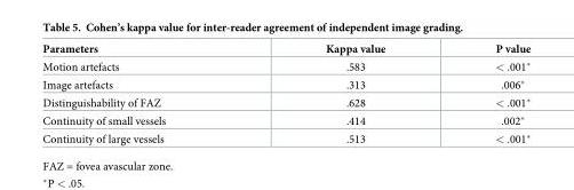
<table><thead><tr><td>Parameters</td><td>Kappa value</td><td>P value</td></tr></thead><tbody><tr><td>Motion artefacts</td><td>.583</td><td>&lt; .001*</td></tr><tr><td>Image artefacts</td><td>.313</td><td>.006*</td></tr><tr><td>Distinguishability of FAZ</td><td>.628</td><td>&lt; .001*</td></tr><tr><td>Continuity of small vessels</td><td>.414</td><td>.002*</td></tr><tr><td>Continuity of large vessels</td><td>.513</td><td>&lt; .001*</td></tr></tbody></table>